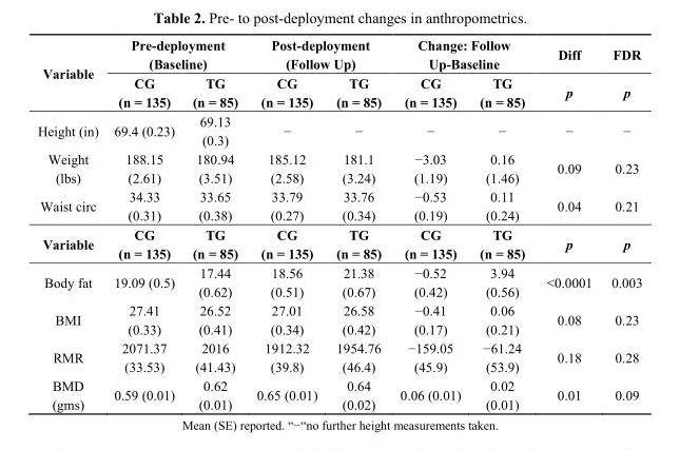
<table><thead><tr><td rowspan="2">Variable</td><td colspan="2">Pre-deployment (Baseline)</td><td colspan="2">Post-deployment (Follow Up)</td><td colspan="2">Change: Follow Up-Baseline</td><td rowspan="2">Diff p</td><td rowspan="2">FDR p</td></tr><tr><td>CG (n = 135)</td><td>TG (n = 85)</td><td>CG (n = 135)</td><td>TG (n = 85)</td><td>CG (n = 135)</td><td>TG (n = 85)</td></tr></thead><tbody><tr><td>Height (in)</td><td>69.4 (0.23)</td><td>69.13 (0.3)</td><td>−</td><td>−</td><td>−</td><td>−</td><td>−</td><td>−</td></tr><tr><td>Weight (lbs)</td><td>188.15 (2.61)</td><td>180.94 (3.51)</td><td>185.12 (2.58)</td><td>181.1 (3.24)</td><td>−3.03 (1.19)</td><td>0.16 (1.46)</td><td>0.09</td><td>0.23</td></tr><tr><td>Waist circ</td><td>34.33 (0.31)</td><td>33.65 (0.38)</td><td>33.79 (0.27)</td><td>33.76 (0.34)</td><td>−0.53 (0.19)</td><td>0.11 (0.24)</td><td>0.04</td><td>0.21</td></tr><tr><td>Variable</td><td>CG (n = 135)</td><td>TG (n = 85)</td><td>CG (n = 135)</td><td>TG (n = 85)</td><td>CG (n = 135)</td><td>TG (n = 85)</td><td>p</td><td>p</td></tr><tr><td>Body fat</td><td>19.09 (0.5)</td><td>17.44 (0.62)</td><td>18.56 (0.51)</td><td>21.38 (0.67)</td><td>−0.52 (0.42)</td><td>3.94 (0.56)</td><td>&lt;0.0001</td><td>0.003</td></tr><tr><td>BMI</td><td>27.41 (0.33)</td><td>26.52 (0.41)</td><td>27.01 (0.34)</td><td>26.58 (0.42)</td><td>−0.41 (0.17)</td><td>0.06 (0.21)</td><td>0.08</td><td>0.23</td></tr><tr><td>RMR</td><td>2071.37 (33.53)</td><td>2016 (41.43)</td><td>1912.32 (39.8)</td><td>1954.76 (46.4)</td><td>−159.05 (45.9)</td><td>−61.24 (53.9)</td><td>0.18</td><td>0.28</td></tr><tr><td>BMD (gms)</td><td>0.59 (0.01)</td><td>0.62 (0.01)</td><td>0.65 (0.01)</td><td>0.64 (0.02)</td><td>0.06 (0.01)</td><td>0.02 (0.01)</td><td>0.01</td><td>0.09</td></tr></tbody></table>